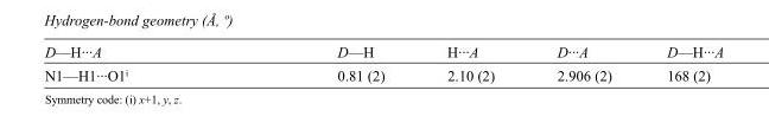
<table><tbody><tr><td>D—H···A</td><td>D—H</td><td>H···A</td><td>D···A</td><td>D—H···A</td></tr><tr><td>N1—H1···O1<sup>i</sup></td><td>0.81 (2)</td><td>2.10 (2)</td><td>2.906 (2)</td><td>168 (2)</td></tr></tbody></table>